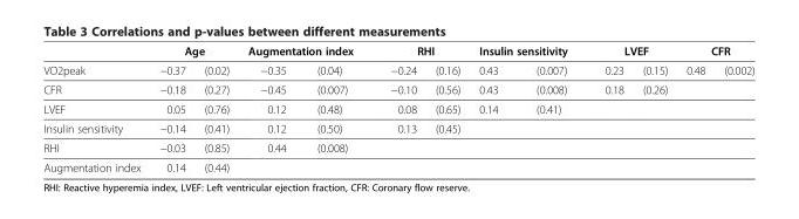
<table><thead><tr><td rowspan="2">VO2peak</td><td colspan="2">Age</td><td colspan="2">Augmentation index</td><td colspan="2">RHI</td><td colspan="2">Insulin sensitivity</td><td colspan="2">LVEF</td><td colspan="2">CFR</td></tr><tr><td>−0.37</td><td>(0.02)</td><td>−0.35</td><td>(0.04)</td><td>−0.24</td><td>(0.16)</td><td>0.43</td><td>(0.007)</td><td>0.23</td><td>(0.15)</td><td>0.48</td><td>(0.002)</td></tr></thead><tbody><tr><td>CFR</td><td>−0.18</td><td>(0.27)</td><td>−0.45</td><td>(0.007)</td><td>−0.10</td><td>(0.56)</td><td>0.43</td><td>(0.008)</td><td>0.18</td><td>(0.26)</td><td></td><td></td></tr><tr><td>LVEF</td><td>0.05</td><td>(0.76)</td><td>0.12</td><td>(0.48)</td><td>0.08</td><td>(0.65)</td><td>0.14</td><td>(0.41)</td><td></td><td></td><td></td><td></td></tr><tr><td>Insulin sensitivity</td><td>−0.14</td><td>(0.41)</td><td>0.12</td><td>(0.50)</td><td>0.13</td><td>(0.45)</td><td></td><td></td><td></td><td></td><td></td><td></td></tr><tr><td>RHI</td><td>−0.03</td><td>(0.85)</td><td>0.44</td><td>(0.008)</td><td></td><td></td><td></td><td></td><td></td><td></td><td></td><td></td></tr><tr><td>Augmentation index</td><td>0.14</td><td>(0.44)</td><td></td><td></td><td></td><td></td><td></td><td></td><td></td><td></td><td></td><td></td></tr></tbody></table>